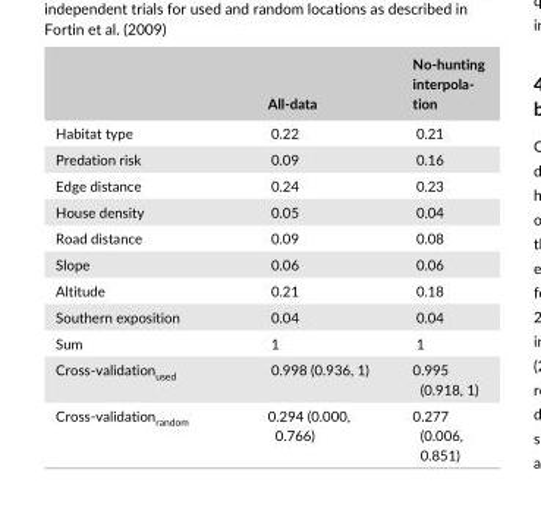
<table><thead><tr><td></td><td>All- data</td><td>No- hunting interpola- tion</td></tr></thead><tbody><tr><td>Habitat type</td><td>0.22</td><td>0.21</td></tr><tr><td>Predation risk</td><td>0.09</td><td>0.16</td></tr><tr><td>Edge distance</td><td>0.24</td><td>0.23</td></tr><tr><td>House density</td><td>0.05</td><td>0.04</td></tr><tr><td>Road distance</td><td>0.09</td><td>0.08</td></tr><tr><td>Slope</td><td>0.06</td><td>0.06</td></tr><tr><td>Altitude</td><td>0.21</td><td>0.18</td></tr><tr><td>Southern exposition</td><td>0.04</td><td>0.04</td></tr><tr><td>Sum</td><td>1</td><td>1</td></tr><tr><td>Cross- validation<sub>used</sub></td><td>0.998 (0.936, 1)</td><td>0.995 (0.918, 1)</td></tr><tr><td>Cross- validation<sub>random</sub></td><td>0.294 (0.000, 0.766)</td><td>0.277 (0.006, 0.851)</td></tr></tbody></table>